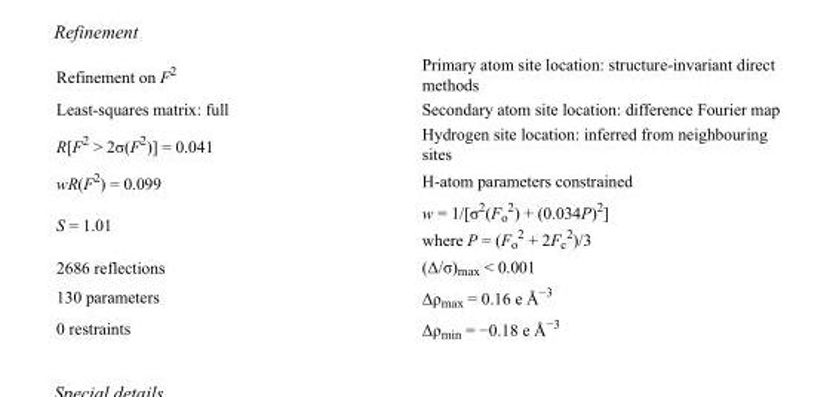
<table><tbody><tr><td>Refinement on F<sup>2</sup></td><td>Primary atom site location: structure-invariant direct methods</td></tr><tr><td>Least-squares matrix: full</td><td>Secondary atom site location: difference Fourier map</td></tr><tr><td>R[F<sup>2</sup> &gt; 2σ(F<sup>2</sup>)] = 0.041</td><td>Hydrogen site location: inferred from neighbouring sites</td></tr><tr><td>wR(F<sup>2</sup>) = 0.099</td><td>H-atom parameters constrained</td></tr><tr><td>S = 1.01</td><td>w = 1/[σ<sup>2</sup>(F<sub>o</sub> <sup>2</sup>) + (0.034P)<sup>2</sup>] where P = (F<sub>o</sub> <sup>2</sup> + 2F<sub>c</sub> <sup>2</sup>)/3</td></tr><tr><td>2686 reflections</td><td>(Δ/σ)<sub>max</sub> &lt; 0.001</td></tr><tr><td>130 parameters</td><td>Δρ<sub>max</sub> = 0.16 e Å<sup>−3</sup></td></tr><tr><td>0 restraints</td><td>Δρ<sub>min</sub> = −0.18 e Å<sup>−3</sup></td></tr></tbody></table>